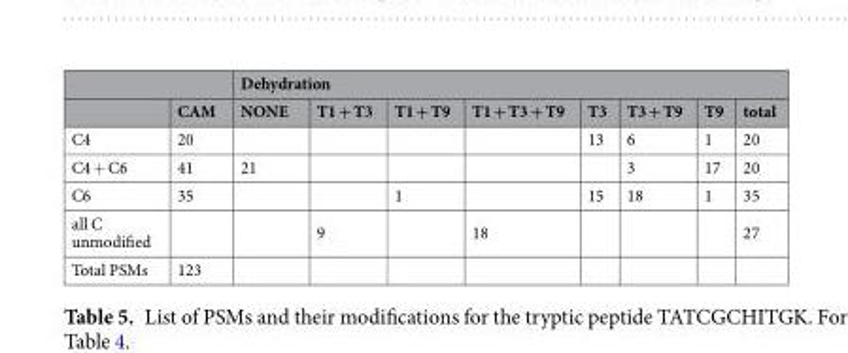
<table><thead><tr><td rowspan="2"></td><td rowspan="2">CAM</td><td colspan="8">Dehydration</td></tr><tr><td>NONE</td><td>T1 + T3</td><td>T1 + T9</td><td>T1 + T3 + T9</td><td>T3</td><td>T3 + T9</td><td>T9</td><td>total</td></tr></thead><tbody><tr><td>C4</td><td>20</td><td></td><td></td><td></td><td></td><td>13</td><td>6</td><td>1</td><td>20</td></tr><tr><td>C4 + C6</td><td>41</td><td>21</td><td></td><td></td><td></td><td></td><td>3</td><td>17</td><td>20</td></tr><tr><td>C6</td><td>35</td><td></td><td></td><td>1</td><td></td><td>15</td><td>18</td><td>1</td><td>35</td></tr><tr><td>all C unmodified</td><td></td><td></td><td>9</td><td></td><td>18</td><td></td><td></td><td></td><td>27</td></tr><tr><td>Total PSMs</td><td>123</td><td></td><td></td><td></td><td></td><td></td><td></td><td></td><td></td></tr></tbody></table>